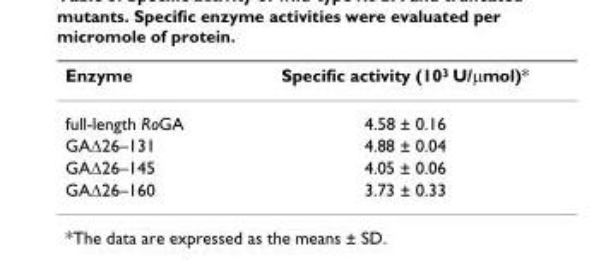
<table><thead><tr><td>Enzyme</td><td>Specific activity (10<sup>3</sup> U/µmol)*</td></tr></thead><tbody><tr><td>full-length RoGA</td><td>4.58 ± 0.16</td></tr><tr><td>GA∆26–131</td><td>4.88 ± 0.04</td></tr><tr><td>GA∆26–145</td><td>4.05 ± 0.06</td></tr><tr><td>GA∆26–160</td><td>3.73 ± 0.33</td></tr></tbody></table>